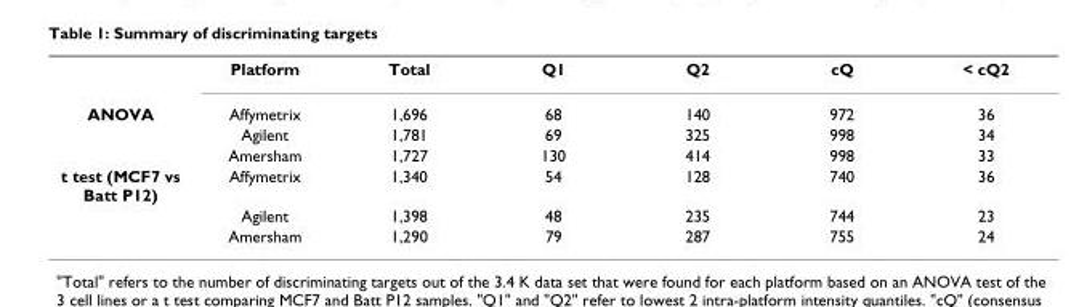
<table><thead><tr><td></td><td>Platform</td><td>Total</td><td>Q1</td><td>Q2</td><td>cQ</td><td>&lt; cQ2</td></tr></thead><tbody><tr><td rowspan="3">ANOVA</td><td>Affymetrix</td><td>1,696</td><td>68</td><td>140</td><td>972</td><td>36</td></tr><tr><td>Agilent</td><td>1,781</td><td>69</td><td>325</td><td>998</td><td>34</td></tr><tr><td>Amersham</td><td>1,727</td><td>130</td><td>414</td><td>998</td><td>33</td></tr><tr><td rowspan="3">t test (MCF7 vs Batt P12)</td><td>Affymetrix</td><td>1,340</td><td>54</td><td>128</td><td>740</td><td>36</td></tr><tr><td>Agilent</td><td>1,398</td><td>48</td><td>235</td><td>744</td><td>23</td></tr><tr><td>Amersham</td><td>1,290</td><td>79</td><td>287</td><td>755</td><td>24</td></tr></tbody></table>